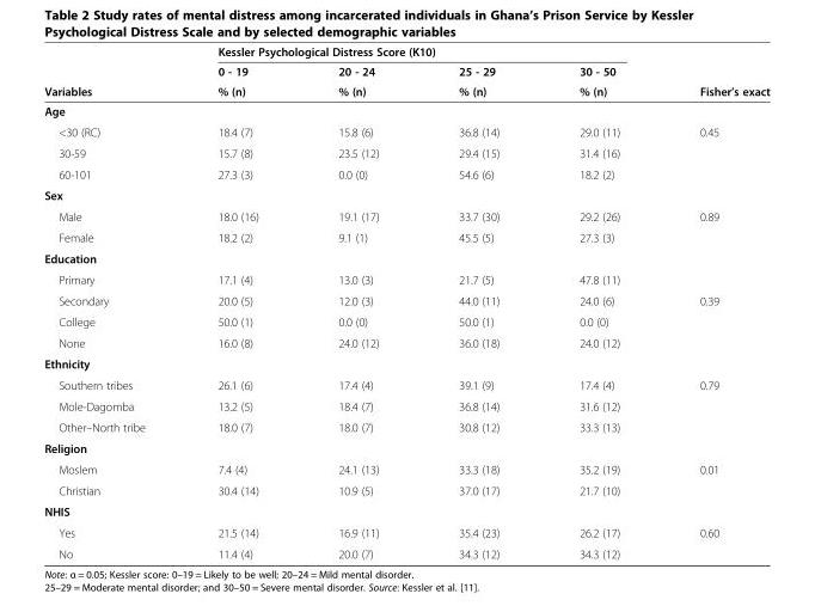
<table><thead><tr><td rowspan="3">Variables</td><td colspan="4">Kessler Psychological Distress Score (K10)</td><td rowspan="3">Fisher’s exact</td></tr><tr><td rowspan="2">0 - 19 % (n)</td><td rowspan="2">20 - 24 % (n)</td><td rowspan="2">25 - 29 % (n)</td><td rowspan="2">30 - 50 % (n)</td></tr><tr></tr></thead><tbody><tr><td colspan="6">Age</td></tr><tr><td>&lt;30 (RC)</td><td>18.4 (7)</td><td>15.8 (6)</td><td>36.8 (14)</td><td>29.0 (11)</td><td>0.45</td></tr><tr><td>30-59</td><td>15.7 (8)</td><td>23.5 (12)</td><td>29.4 (15)</td><td>31.4 (16)</td><td></td></tr><tr><td>60-101</td><td>27.3 (3)</td><td>0.0 (0)</td><td>54.6 (6)</td><td>18.2 (2)</td><td></td></tr><tr><td colspan="6">Sex</td></tr><tr><td>Male</td><td>18.0 (16)</td><td>19.1 (17)</td><td>33.7 (30)</td><td>29.2 (26)</td><td>0.89</td></tr><tr><td>Female</td><td>18.2 (2)</td><td>9.1 (1)</td><td>45.5 (5)</td><td>27.3 (3)</td><td></td></tr><tr><td colspan="6">Education</td></tr><tr><td>Primary</td><td>17.1 (4)</td><td>13.0 (3)</td><td>21.7 (5)</td><td>47.8 (11)</td><td></td></tr><tr><td>Secondary</td><td>20.0 (5)</td><td>12.0 (3)</td><td>44.0 (11)</td><td>24.0 (6)</td><td>0.39</td></tr><tr><td>College</td><td>50.0 (1)</td><td>0.0 (0)</td><td>50.0 (1)</td><td>0.0 (0)</td><td></td></tr><tr><td>None</td><td>16.0 (8)</td><td>24.0 (12)</td><td>36.0 (18)</td><td>24.0 (12)</td><td></td></tr><tr><td colspan="6">Ethnicity</td></tr><tr><td>Southern tribes</td><td>26.1 (6)</td><td>17.4 (4)</td><td>39.1 (9)</td><td>17.4 (4)</td><td>0.79</td></tr><tr><td>Mole-Dagomba</td><td>13.2 (5)</td><td>18.4 (7)</td><td>36.8 (14)</td><td>31.6 (12)</td><td></td></tr><tr><td>Other–North tribe</td><td>18.0 (7)</td><td>18.0 (7)</td><td>30.8 (12)</td><td>33.3 (13)</td><td></td></tr><tr><td colspan="6">Religion</td></tr><tr><td>Moslem</td><td>7.4 (4)</td><td>24.1 (13)</td><td>33.3 (18)</td><td>35.2 (19)</td><td>0.01</td></tr><tr><td>Christian</td><td>30.4 (14)</td><td>10.9 (5)</td><td>37.0 (17)</td><td>21.7 (10)</td><td></td></tr><tr><td colspan="6">NHIS</td></tr><tr><td>Yes</td><td>21.5 (14)</td><td>16.9 (11)</td><td>35.4 (23)</td><td>26.2 (17)</td><td>0.60</td></tr><tr><td>No</td><td>11.4 (4)</td><td>20.0 (7)</td><td>34.3 (12)</td><td>34.3 (12)</td><td></td></tr></tbody></table>